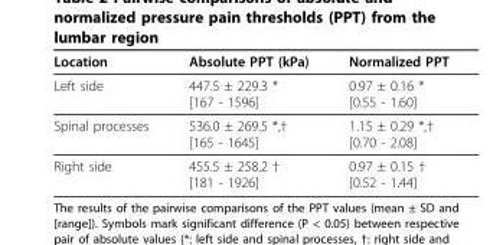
<table><thead><tr><td>Location</td><td>Absolute PPT (kPa)</td><td>Normalized PPT</td></tr></thead><tbody><tr><td>Left side</td><td>447.5 ± 229.3 * [167 - 1596]</td><td>0.97 ± 0.16 * [0.55 - 1.60]</td></tr><tr><td>Spinal processes</td><td>536.0 ± 269.5 *,† [165 - 1645]</td><td>1.15 ± 0.29 *,† [0.70 - 2.08]</td></tr><tr><td>Right side</td><td>455.5 ± 258.2 † [181 - 1926]</td><td>0.97 ± 0.15 † [0.52 - 1.44]</td></tr></tbody></table>